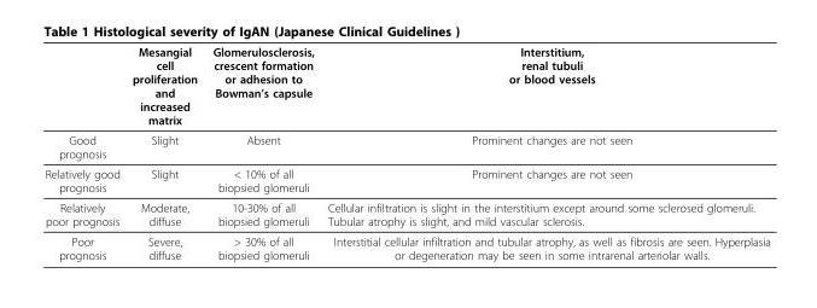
<table><thead><tr><td></td><td>Mesangial cell proliferation and increased matrix</td><td>Glomerulosclerosis, crescent formation or adhesion to Bowman’s capsule</td><td>Interstitium, renal tubuli or blood vessels</td></tr></thead><tbody><tr><td>Good prognosis</td><td>Slight</td><td>Absent</td><td>Prominent changes are not seen</td></tr><tr><td>Relatively good prognosis</td><td>Slight</td><td>&lt; 10% of all biopsied glomeruli</td><td>Prominent changes are not seen</td></tr><tr><td>Relatively poor prognosis</td><td>Moderate, diffuse</td><td>10-30% of all biopsied glomeruli</td><td>Cellular infiltration is slight in the interstitium except around some sclerosed glomeruli. Tubular atrophy is slight, and mild vascular sclerosis.</td></tr><tr><td>Poor prognosis</td><td>Severe, diffuse</td><td>&gt; 30% of all biopsied glomeruli</td><td>Interstitial cellular infiltration and tubular atrophy, as well as fibrosis are seen. Hyperplasia or degeneration may be seen in some intrarenal arteriolar walls.</td></tr></tbody></table>